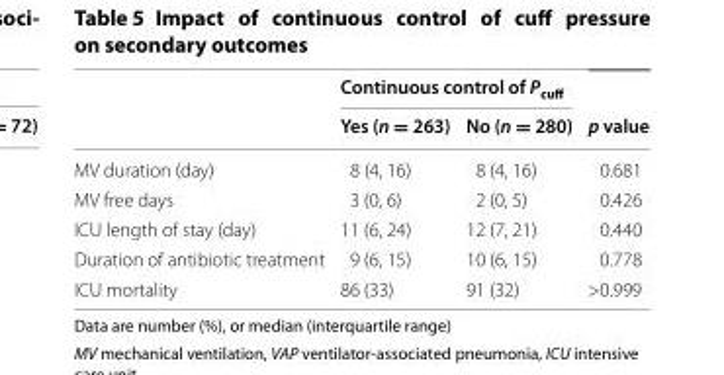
<table><thead><tr><td rowspan="2"></td><td colspan="2">Continuous control of P<sub>cuff</sub></td><td rowspan="2">p value</td></tr><tr><td>Yes (n = 263)</td><td>No (n = 280)</td></tr></thead><tbody><tr><td>MV duration (day)</td><td>8 (4, 16)</td><td>8 (4, 16)</td><td>0.681</td></tr><tr><td>MV free days</td><td>3 (0, 6)</td><td>2 (0, 5)</td><td>0.426</td></tr><tr><td>ICU length of stay (day)</td><td>11 (6, 24)</td><td>12 (7, 21)</td><td>0.440</td></tr><tr><td>Duration of antibiotic treatment</td><td>9 (6, 15)</td><td>10 (6, 15)</td><td>0.778</td></tr><tr><td>ICU mortality</td><td>86 (33)</td><td>91 (32)</td><td>&gt;0.999</td></tr></tbody></table>